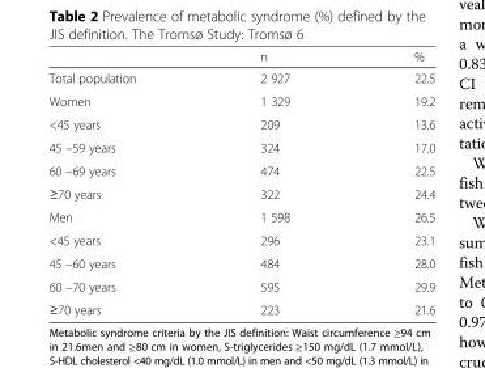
<table><thead><tr><td></td><td>n</td><td>%</td></tr></thead><tbody><tr><td>Total population</td><td>2 927</td><td>22.5</td></tr><tr><td>Women</td><td>1 329</td><td>19.2</td></tr><tr><td>&lt;45 years</td><td>209</td><td>13.6</td></tr><tr><td>45 –59 years</td><td>324</td><td>17.0</td></tr><tr><td>60 –69 years</td><td>474</td><td>22.5</td></tr><tr><td>≥70 years</td><td>322</td><td>24.4</td></tr><tr><td>Men</td><td>1 598</td><td>26.5</td></tr><tr><td>&lt;45 years</td><td>296</td><td>23.1</td></tr><tr><td>45 –60 years</td><td>484</td><td>28.0</td></tr><tr><td>60 –70 years</td><td>595</td><td>29.9</td></tr><tr><td>≥70 years</td><td>223</td><td>21.6</td></tr></tbody></table>